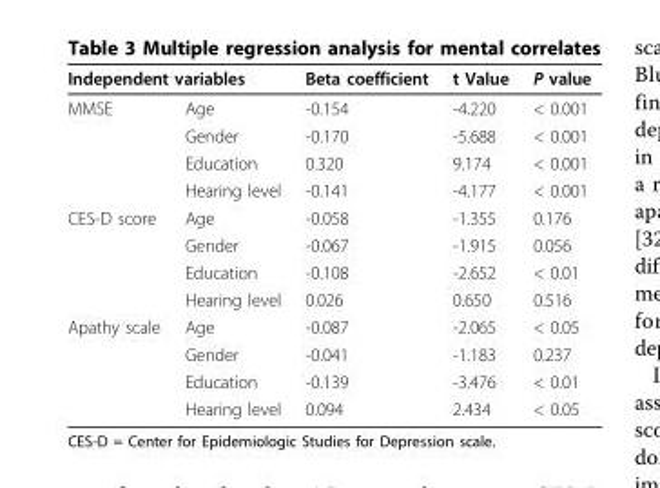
<table><thead><tr><td colspan="2">Independent variables</td><td rowspan="2">Beta coefficient -0.154</td><td rowspan="2">t Value -4.220</td><td rowspan="2">P value &lt; 0.001</td></tr><tr><td>MMSE</td><td>Age</td></tr></thead><tbody><tr><td></td><td>Gender</td><td>-0.170</td><td>-5.688</td><td>&lt; 0.001</td></tr><tr><td></td><td>Education</td><td>0.320</td><td>9.174</td><td>&lt; 0.001</td></tr><tr><td></td><td>Hearing level</td><td>-0.141</td><td>-4.177</td><td>&lt; 0.001</td></tr><tr><td rowspan="4">CES-D score</td><td>Age</td><td>-0.058</td><td>-1.355</td><td>0.176</td></tr><tr><td>Gender</td><td>-0.067</td><td>-1.915</td><td>0.056</td></tr><tr><td>Education</td><td>-0.108</td><td>-2.652</td><td>&lt; 0.01</td></tr><tr><td>Hearing level</td><td>0.026</td><td>0.650</td><td>0.516</td></tr><tr><td rowspan="4">Apathy scale</td><td>Age</td><td>-0.087</td><td>-2.065</td><td>&lt; 0.05</td></tr><tr><td>Gender</td><td>-0.041</td><td>-1.183</td><td>0.237</td></tr><tr><td>Education</td><td>-0.139</td><td>-3.476</td><td>&lt; 0.01</td></tr><tr><td>Hearing level</td><td>0.094</td><td>2.434</td><td>&lt; 0.05</td></tr></tbody></table>